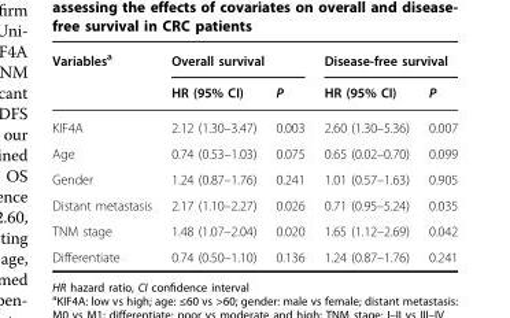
<table><thead><tr><td rowspan="2">Variables<sup>a</sup></td><td colspan="2">Overall survival</td><td colspan="2">Disease-free survival</td></tr><tr><td>HR (95% CI)</td><td>P</td><td>HR (95% CI)</td><td>P</td></tr></thead><tbody><tr><td>KIF4A</td><td>2.12 (1.30–3.47)</td><td>0.003</td><td>2.60 (1.30–5.36)</td><td>0.007</td></tr><tr><td>Age</td><td>0.74 (0.53–1.03)</td><td>0.075</td><td>0.65 (0.02–0.70)</td><td>0.099</td></tr><tr><td>Gender</td><td>1.24 (0.87–1.76)</td><td>0.241</td><td>1.01 (0.57–1.63)</td><td>0.905</td></tr><tr><td>Distant metastasis</td><td>2.17 (1.10–2.27)</td><td>0.026</td><td>0.71 (0.95–5.24)</td><td>0.035</td></tr><tr><td>TNM stage</td><td>1.48 (1.07–2.04)</td><td>0.020</td><td>1.65 (1.12–2.69)</td><td>0.042</td></tr><tr><td>Differentiate</td><td>0.74 (0.50–1.10)</td><td>0.136</td><td>1.24 (0.87–1.76)</td><td>0.241</td></tr></tbody></table>